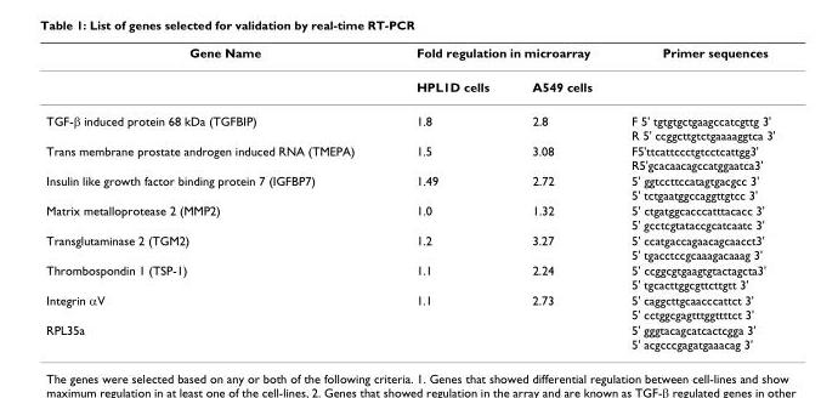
<table><thead><tr><td rowspan="2">Gene Name</td><td colspan="2">Fold regulation in microarray</td><td rowspan="2">Primer sequences</td></tr><tr><td>HPL1D cells</td><td>A549 cells</td></tr></thead><tbody><tr><td>TGF-β induced protein 68 kDa (TGFBIP)</td><td>1.8</td><td>2.8</td><td>F 5&#x27; tgtgtgctgaagccatcgttg 3&#x27; R 5&#x27; ccggcttgtctgaaaaggtca 3&#x27;</td></tr><tr><td>Trans membrane prostate androgen induced RNA (TMEPA)</td><td>1.5</td><td>3.08</td><td>F5&#x27;ttcattccctgtcctcattgg3&#x27; R5&#x27;gcacaacagccatggaatca3&#x27;</td></tr><tr><td>Insulin like growth factor binding protein 7 (IGFBP7)</td><td>1.49</td><td>2.72</td><td>5&#x27; ggtccttccatagtgacgcc 3&#x27; 5&#x27; tctgaatggccaggttgtcc 3&#x27;</td></tr><tr><td>Matrix metalloprotease 2 (MMP2)</td><td>1.0</td><td>1.32</td><td>5&#x27; ctgatggcacccatttacacc 3&#x27; 5&#x27; gcctcgtataccgcatcaatc 3&#x27;</td></tr><tr><td>Transglutaminase 2 (TGM2)</td><td>1.2</td><td>3.27</td><td>5&#x27; ccatgaccagaacagcaacct3&#x27; 5&#x27; tgacctccgcaaagacaaag 3&#x27;</td></tr><tr><td>Thrombospondin 1 (TSP-1)</td><td>1.1</td><td>2.24</td><td>5&#x27; ccggcgtgaagtgtactagcta3&#x27; 5&#x27; tgcacttggcgttcttgtt 3&#x27;</td></tr><tr><td>Integrin αV</td><td>1.1</td><td>2.73</td><td>5&#x27; caggcttgcaacccattct 3&#x27; 5&#x27; cctggcgagtttggttttct 3&#x27;</td></tr><tr><td>RPL35a</td><td></td><td></td><td>5&#x27; gggtacagcatcactcgga 3&#x27; 5&#x27; acgcccgagatgaaacag 3&#x27;</td></tr></tbody></table>